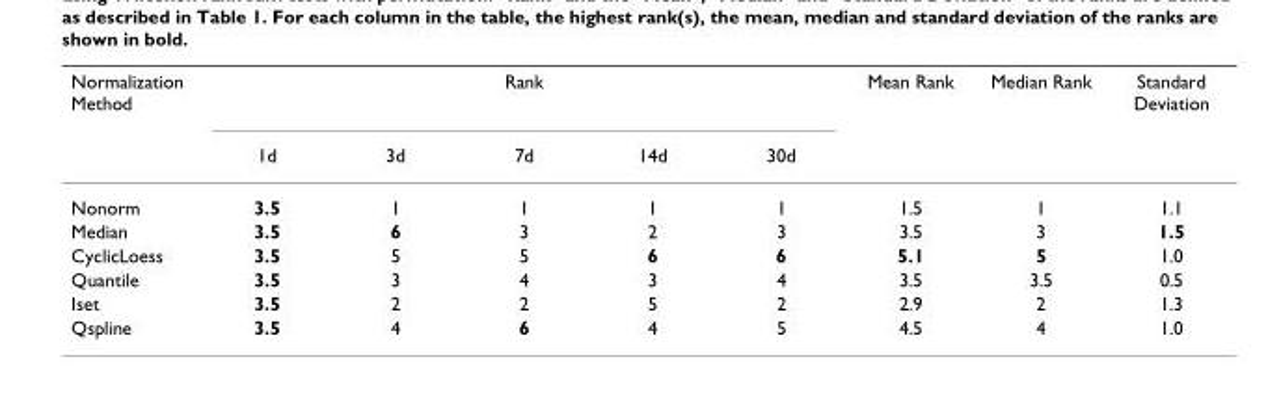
<table><thead><tr><td rowspan="2">Normalization Method</td><td colspan="5">Rank</td><td rowspan="2">Mean Rank</td><td rowspan="2">Median Rank</td><td rowspan="2">Standard Deviation</td></tr><tr><td>1d</td><td>3d</td><td>7d</td><td>14d</td><td>30d</td></tr></thead><tbody><tr><td>Nonorm</td><td>3.5</td><td>1</td><td>1</td><td>1</td><td>1</td><td>1.5</td><td>1</td><td>1.1</td></tr><tr><td>Median</td><td>3.5</td><td>6</td><td>3</td><td>2</td><td>3</td><td>3.5</td><td>3</td><td>1.5</td></tr><tr><td>CyclicLoess</td><td>3.5</td><td>5</td><td>5</td><td>6</td><td>6</td><td>5.1</td><td>5</td><td>1.0</td></tr><tr><td>Quantile</td><td>3.5</td><td>3</td><td>4</td><td>3</td><td>4</td><td>3.5</td><td>3.5</td><td>0.5</td></tr><tr><td>Iset</td><td>3.5</td><td>2</td><td>2</td><td>5</td><td>2</td><td>2.9</td><td>2</td><td>1.3</td></tr><tr><td>Qspline</td><td>3.5</td><td>4</td><td>6</td><td>4</td><td>5</td><td>4.5</td><td>4</td><td>1.0</td></tr></tbody></table>